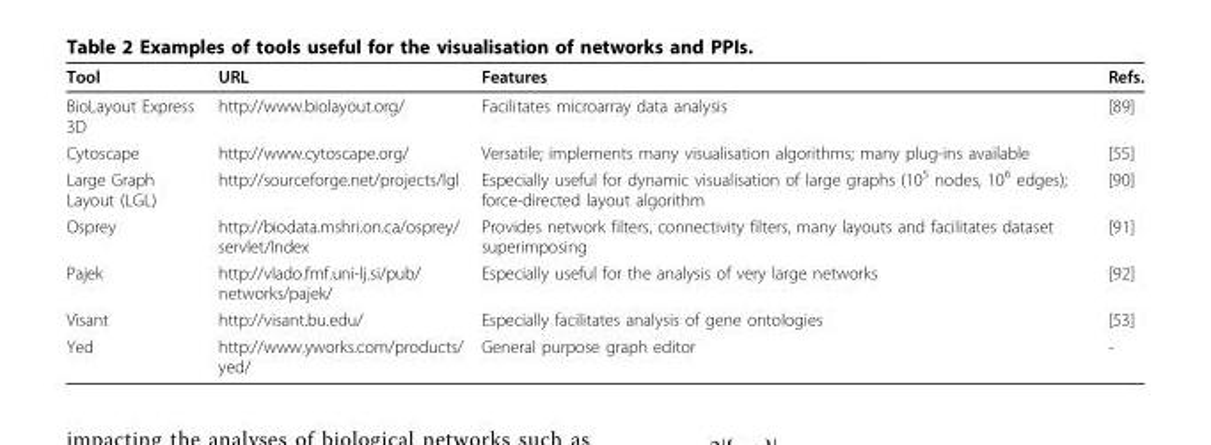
<table><thead><tr><td>Tool</td><td>URL</td><td>Features</td><td>Refs.</td></tr></thead><tbody><tr><td>BioLayout Express 3D</td><td>http://www.biolayout.org/</td><td>Facilitates microarray data analysis</td><td>[89]</td></tr><tr><td>Cytoscape</td><td>http://www.cytoscape.org/</td><td>Versatile; implements many visualisation algorithms; many plug-ins available</td><td>[55]</td></tr><tr><td>Large Graph Layout (LGL)</td><td>http://sourceforge.net/projects/lgl</td><td>Especially useful for dynamic visualisation of large graphs (10<sup>5</sup> nodes, 10<sup>6</sup> edges); force-directed layout algorithm</td><td>[90]</td></tr><tr><td>Osprey</td><td>http://biodata.mshri.on.ca/osprey/ servlet/Index</td><td>Provides network filters, connectivity filters, many layouts and facilitates dataset superimposing</td><td>[91]</td></tr><tr><td>Pajek</td><td>http://vlado.fmf.uni-lj.si/pub/ networks/pajek/</td><td>Especially useful for the analysis of very large networks</td><td>[92]</td></tr><tr><td>Visant</td><td>http://visant.bu.edu/</td><td>Especially facilitates analysis of gene ontologies</td><td>[53]</td></tr><tr><td>Yed</td><td>http://www.yworks.com/products/ yed/</td><td>General purpose graph editor</td><td>-</td></tr></tbody></table>